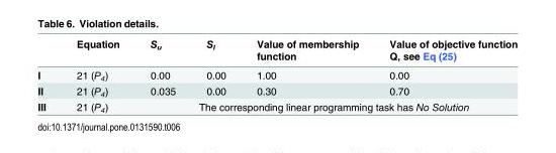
<table><thead><tr><td></td><td>Equation</td><td>S<sub>u</sub></td><td>S<sub>l</sub></td><td>Value of membership function</td><td>Value of objective function Q, see Eq (25)</td></tr></thead><tbody><tr><td>I</td><td>21 (P<sub>4</sub>)</td><td>0.00</td><td>0.00</td><td>1.00</td><td>0.00</td></tr><tr><td>II</td><td>21 (P<sub>4</sub>)</td><td>0.035</td><td>0.00</td><td>0.30</td><td>0.70</td></tr><tr><td>III</td><td>21 (P<sub>4</sub>)</td><td colspan="4">The corresponding linear programming task has No Solution</td></tr></tbody></table>